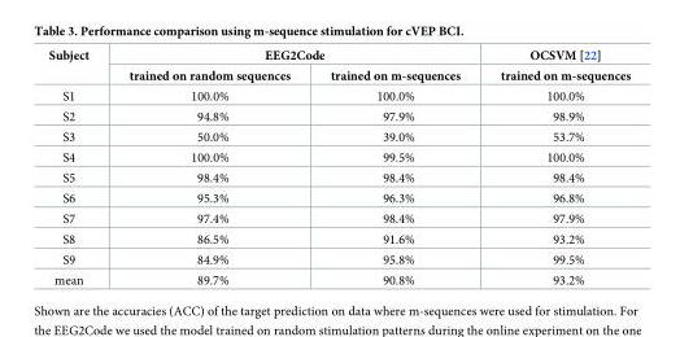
<table><thead><tr><td rowspan="2">Subject</td><td colspan="2">EEG2Code</td><td rowspan="2">OCSVM [22] trained on m-sequences</td></tr><tr><td>trained on random sequences</td><td>trained on m-sequences</td></tr></thead><tbody><tr><td>S1</td><td>100.0%</td><td>100.0%</td><td>100.0%</td></tr><tr><td>S2</td><td>94.8%</td><td>97.9%</td><td>98.9%</td></tr><tr><td>S3</td><td>50.0%</td><td>39.0%</td><td>53.7%</td></tr><tr><td>S4</td><td>100.0%</td><td>99.5%</td><td>100.0%</td></tr><tr><td>S5</td><td>98.4%</td><td>98.4%</td><td>98.4%</td></tr><tr><td>S6</td><td>95.3%</td><td>96.3%</td><td>96.8%</td></tr><tr><td>S7</td><td>97.4%</td><td>98.4%</td><td>97.9%</td></tr><tr><td>S8</td><td>86.5%</td><td>91.6%</td><td>93.2%</td></tr><tr><td>S9</td><td>84.9%</td><td>95.8%</td><td>99.5%</td></tr><tr><td>mean</td><td>89.7%</td><td>90.8%</td><td>93.2%</td></tr></tbody></table>